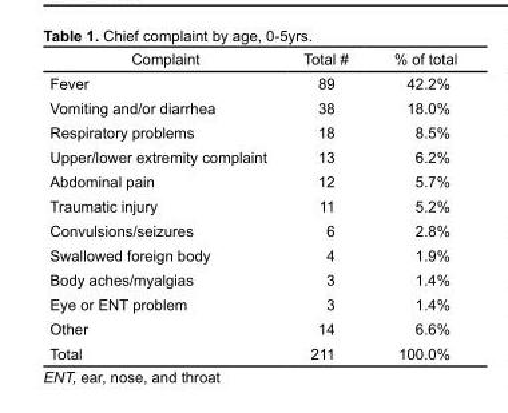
<table><thead><tr><td>Complaint</td><td>Total #</td><td>% of total</td></tr></thead><tbody><tr><td>Fever</td><td>89</td><td>42.2%</td></tr><tr><td>Vomiting and/or diarrhea</td><td>38</td><td>18.0%</td></tr><tr><td>Respiratory problems</td><td>18</td><td>8.5%</td></tr><tr><td>Upper/lower extremity complaint</td><td>13</td><td>6.2%</td></tr><tr><td>Abdominal pain</td><td>12</td><td>5.7%</td></tr><tr><td>Traumatic injury</td><td>11</td><td>5.2%</td></tr><tr><td>Convulsions/seizures</td><td>6</td><td>2.8%</td></tr><tr><td>Swallowed foreign body</td><td>4</td><td>1.9%</td></tr><tr><td>Body aches/myalgias</td><td>3</td><td>1.4%</td></tr><tr><td>Eye or ENT problem</td><td>3</td><td>1.4%</td></tr><tr><td>Other</td><td>14</td><td>6.6%</td></tr><tr><td>Total</td><td>211</td><td>100.0%</td></tr></tbody></table>